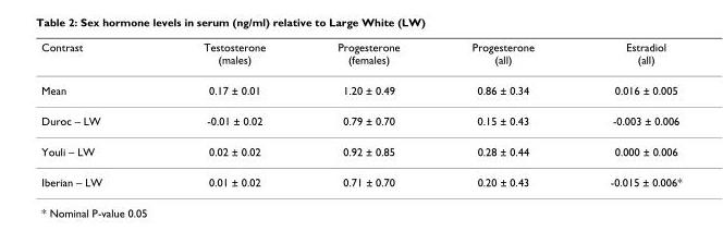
<table><thead><tr><td>Contrast</td><td>Testosterone (males)</td><td>Progesterone (females)</td><td>Progesterone (all)</td><td>Estradiol (all)</td></tr></thead><tbody><tr><td>Mean</td><td>0.17 ± 0.01</td><td>1.20 ± 0.49</td><td>0.86 ± 0.34</td><td>0.016 ± 0.005</td></tr><tr><td>Duroc – LW</td><td>-0.01 ± 0.02</td><td>0.79 ± 0.70</td><td>0.15 ± 0.43</td><td>-0.003 ± 0.006</td></tr><tr><td>Youli – LW</td><td>0.02 ± 0.02</td><td>0.92 ± 0.85</td><td>0.28 ± 0.44</td><td>0.000 ± 0.006</td></tr><tr><td>Iberian – LW</td><td>0.01 ± 0.02</td><td>0.71 ± 0.70</td><td>0.20 ± 0.43</td><td>-0.015 ± 0.006*</td></tr></tbody></table>